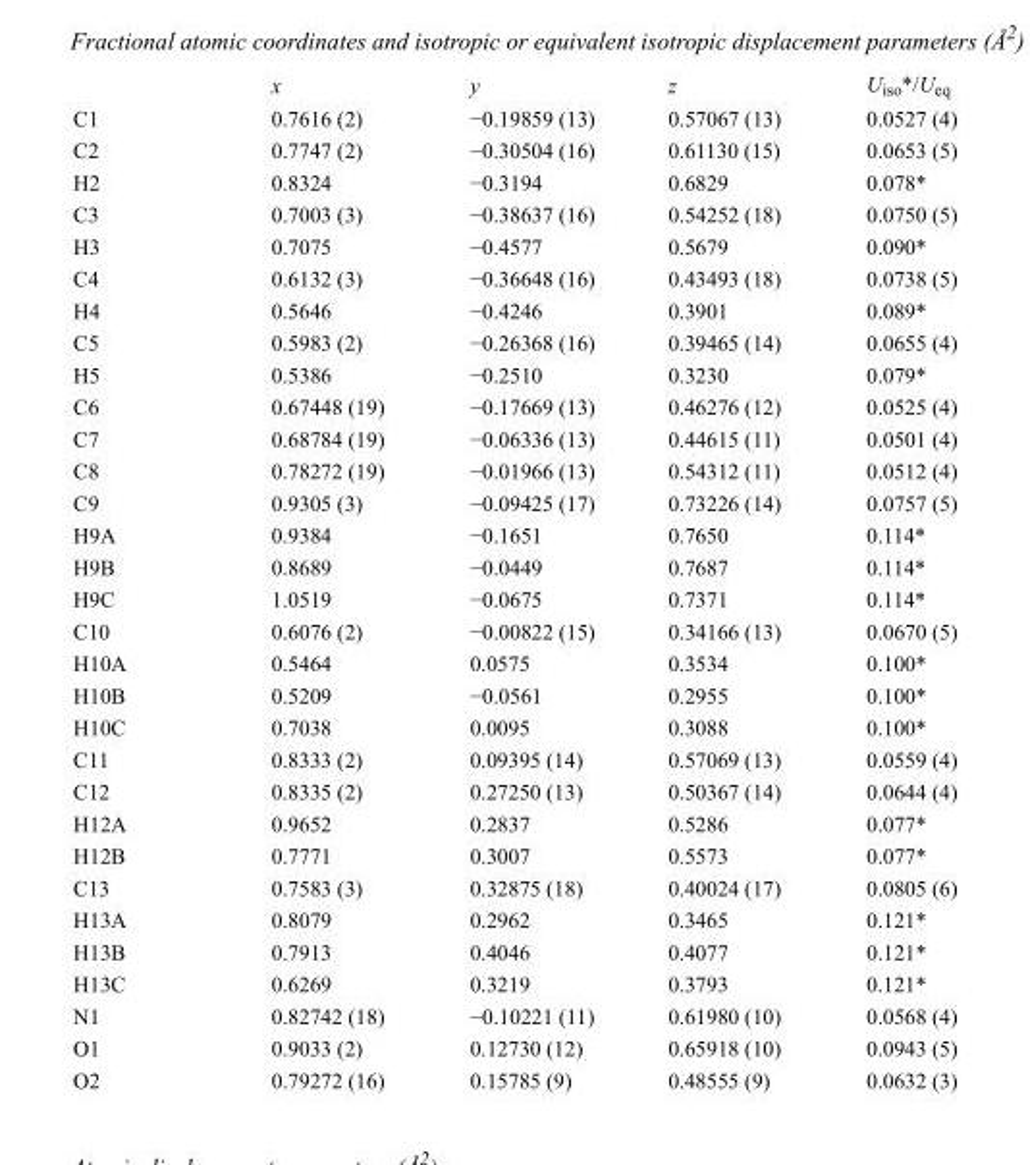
<table><thead><tr><td></td><td>x</td><td>y</td><td>z</td><td>U<sub>iso</sub>*/U<sub>eq</sub></td></tr></thead><tbody><tr><td>C1</td><td>0.7616 (2)</td><td>−0.19859 (13)</td><td>0.57067 (13)</td><td>0.0527 (4)</td></tr><tr><td>C2</td><td>0.7747 (2)</td><td>−0.30504 (16)</td><td>0.61130 (15)</td><td>0.0653 (5)</td></tr><tr><td>H2</td><td>0.8324</td><td>−0.3194</td><td>0.6829</td><td>0.078*</td></tr><tr><td>C3</td><td>0.7003 (3)</td><td>−0.38637 (16)</td><td>0.54252 (18)</td><td>0.0750 (5)</td></tr><tr><td>H3</td><td>0.7075</td><td>−0.4577</td><td>0.5679</td><td>0.090*</td></tr><tr><td>C4</td><td>0.6132 (3)</td><td>−0.36648 (16)</td><td>0.43493 (18)</td><td>0.0738 (5)</td></tr><tr><td>H4</td><td>0.5646</td><td>−0.4246</td><td>0.3901</td><td>0.089*</td></tr><tr><td>C5</td><td>0.5983 (2)</td><td>−0.26368 (16)</td><td>0.39465 (14)</td><td>0.0655 (4)</td></tr><tr><td>H5</td><td>0.5386</td><td>−0.2510</td><td>0.3230</td><td>0.079*</td></tr><tr><td>C6</td><td>0.67448 (19)</td><td>−0.17669 (13)</td><td>0.46276 (12)</td><td>0.0525 (4)</td></tr><tr><td>C7</td><td>0.68784 (19)</td><td>−0.06336 (13)</td><td>0.44615 (11)</td><td>0.0501 (4)</td></tr><tr><td>C8</td><td>0.78272 (19)</td><td>−0.01966 (13)</td><td>0.54312 (11)</td><td>0.0512 (4)</td></tr><tr><td>C9</td><td>0.9305 (3)</td><td>−0.09425 (17)</td><td>0.73226 (14)</td><td>0.0757 (5)</td></tr><tr><td>H9A</td><td>0.9384</td><td>−0.1651</td><td>0.7650</td><td>0.114*</td></tr><tr><td>H9B</td><td>0.8689</td><td>−0.0449</td><td>0.7687</td><td>0.114*</td></tr><tr><td>H9C</td><td>1.0519</td><td>−0.0675</td><td>0.7371</td><td>0.114*</td></tr><tr><td>C10</td><td>0.6076 (2)</td><td>−0.00822 (15)</td><td>0.34166 (13)</td><td>0.0670 (5)</td></tr><tr><td>H10A</td><td>0.5464</td><td>0.0575</td><td>0.3534</td><td>0.100*</td></tr><tr><td>H10B</td><td>0.5209</td><td>−0.0561</td><td>0.2955</td><td>0.100*</td></tr><tr><td>H10C</td><td>0.7038</td><td>0.0095</td><td>0.3088</td><td>0.100*</td></tr><tr><td>C11</td><td>0.8333 (2)</td><td>0.09395 (14)</td><td>0.57069 (13)</td><td>0.0559 (4)</td></tr><tr><td>C12</td><td>0.8335 (2)</td><td>0.27250 (13)</td><td>0.50367 (14)</td><td>0.0644 (4)</td></tr><tr><td>H12A</td><td>0.9652</td><td>0.2837</td><td>0.5286</td><td>0.077*</td></tr><tr><td>H12B</td><td>0.7771</td><td>0.3007</td><td>0.5573</td><td>0.077*</td></tr><tr><td>C13</td><td>0.7583 (3)</td><td>0.32875 (18)</td><td>0.40024 (17)</td><td>0.0805 (6)</td></tr><tr><td>H13A</td><td>0.8079</td><td>0.2962</td><td>0.3465</td><td>0.121*</td></tr><tr><td>H13B</td><td>0.7913</td><td>0.4046</td><td>0.4077</td><td>0.121*</td></tr><tr><td>H13C</td><td>0.6269</td><td>0.3219</td><td>0.3793</td><td>0.121*</td></tr><tr><td>N1</td><td>0.82742 (18)</td><td>−0.10221 (11)</td><td>0.61980 (10)</td><td>0.0568 (4)</td></tr><tr><td>O1</td><td>0.9033 (2)</td><td>0.12730 (12)</td><td>0.65918 (10)</td><td>0.0943 (5)</td></tr><tr><td>O2</td><td>0.79272 (16)</td><td>0.15785 (9)</td><td>0.48555 (9)</td><td>0.0632 (3)</td></tr></tbody></table>